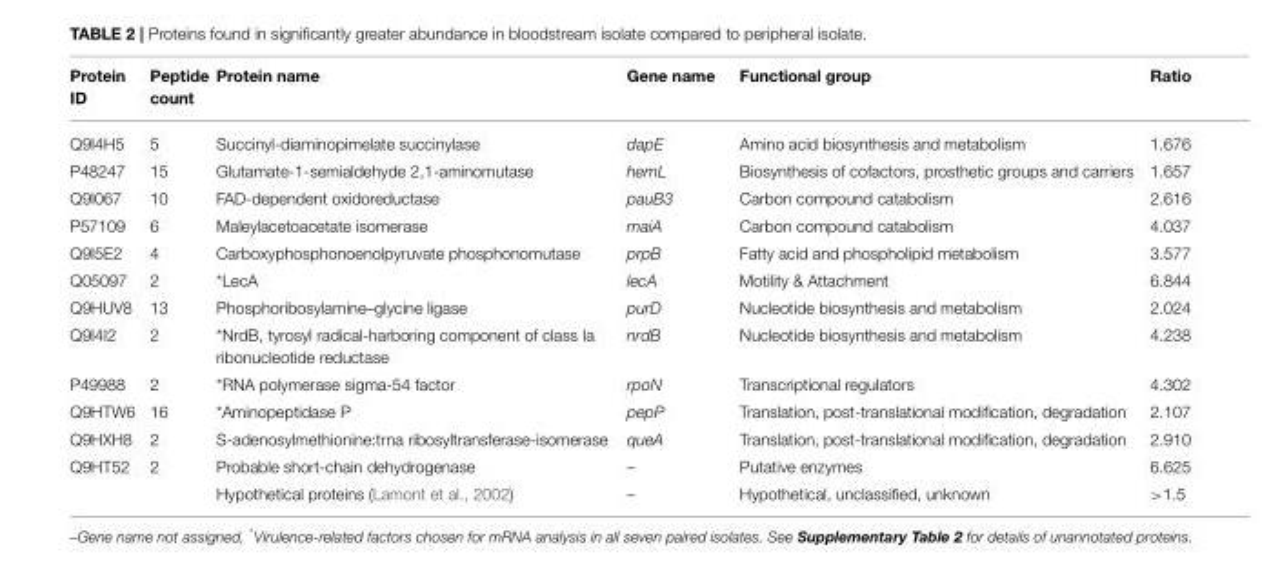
<table><thead><tr><td>Protein ID</td><td>Peptide count</td><td>Protein name</td><td>Gene name</td><td>Functional group</td><td>Ratio</td></tr></thead><tbody><tr><td>Q9I4H5</td><td>5</td><td>Succinyl-diaminopimelate succinylase</td><td>dapE</td><td>Amino acid biosynthesis and metabolism</td><td>1.676</td></tr><tr><td>P48247</td><td>15</td><td>Glutamate-1-semialdehyde 2,1-aminomutase</td><td>hemL</td><td>Biosynthesis of cofactors, prosthetic groups and carriers</td><td>1.657</td></tr><tr><td>Q9I067</td><td>10</td><td>FAD-dependent oxidoreductase</td><td>pauB3</td><td>Carbon compound catabolism</td><td>2.616</td></tr><tr><td>P57109</td><td>6</td><td>Maleylacetoacetate isomerase</td><td>maiA</td><td>Carbon compound catabolism</td><td>4.037</td></tr><tr><td>Q9I5E2</td><td>4</td><td>Carboxyphosphonoenolpyruvate phosphonomutase</td><td>prpB</td><td>Fatty acid and phospholipid metabolism</td><td>3.577</td></tr><tr><td>Q05097</td><td>2</td><td>*LecA</td><td>lecA</td><td>Motility &amp; Attachment</td><td>6.844</td></tr><tr><td>Q9HUV8</td><td>13</td><td>Phosphoribosylamine–glycine ligase</td><td>purD</td><td>Nucleotide biosynthesis and metabolism</td><td>2.024</td></tr><tr><td>Q9I4I2</td><td>2</td><td>*NrdB, tyrosyl radical-harboring component of class Ia ribonucleotide reductase</td><td>nrdB</td><td>Nucleotide biosynthesis and metabolism</td><td>4.238</td></tr><tr><td>P49988</td><td>2</td><td>*RNA polymerase sigma-54 factor</td><td>rpoN</td><td>Transcriptional regulators</td><td>4.302</td></tr><tr><td>Q9HTW6</td><td>16</td><td>*Aminopeptidase P</td><td>pepP</td><td>Translation, post-translational modification, degradation</td><td>2.107</td></tr><tr><td>Q9HXH8</td><td>2</td><td>S-adenosylmethionine:trna ribosyltransferase-isomerase</td><td>queA</td><td>Translation, post-translational modification, degradation</td><td>2.910</td></tr><tr><td rowspan="2">Q9HT52</td><td>2</td><td>Probable short-chain dehydrogenase</td><td>–</td><td>Putative enzymes</td><td>6.625</td></tr><tr><td></td><td>Hypothetical proteins (Lamont et al., 2002)</td><td>–</td><td>Hypothetical, unclassified, unknown</td><td>&gt;1.5</td></tr></tbody></table>